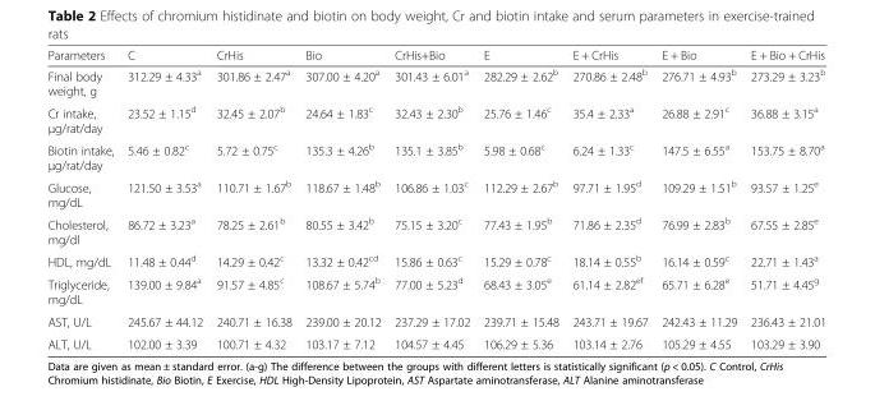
<table><thead><tr><td>Parameters</td><td>C</td><td>CrHis</td><td>Bio</td><td>CrHis+Bio</td><td>E</td><td>E + CrHis</td><td>E + Bio</td><td>E + Bio + CrHis</td></tr></thead><tbody><tr><td>Final body weight, g</td><td>312.29 ± 4.33<sup>a</sup></td><td>301.86 ± 2.47<sup>a</sup></td><td>307.00 ± 4.20<sup>a</sup></td><td>301.43 ± 6.01<sup>a</sup></td><td>282.29 ± 2.62<sup>b</sup></td><td>270.86 ± 2.48<sup>b</sup></td><td>276.71 ± 4.93<sup>b</sup></td><td>273.29 ± 3.23<sup>b</sup></td></tr><tr><td>Cr intake, μg/rat/day</td><td>23.52 ± 1.15<sup>d</sup></td><td>32.45 ± 2.07<sup>b</sup></td><td>24.64 ± 1.83<sup>c</sup></td><td>32.43 ± 2.30<sup>b</sup></td><td>25.76 ± 1.46<sup>c</sup></td><td>35.4 ± 2.33<sup>a</sup></td><td>26.88 ± 2.91<sup>c</sup></td><td>36.88 ± 3.15<sup>a</sup></td></tr><tr><td>Biotin intake, μg/rat/day</td><td>5.46 ± 0.82<sup>c</sup></td><td>5.72 ± 0.75<sup>c</sup></td><td>135.3 ± 4.26<sup>b</sup></td><td>135.1 ± 3.85<sup>b</sup></td><td>5.98 ± 0.68<sup>c</sup></td><td>6.24 ± 1.33<sup>c</sup></td><td>147.5 ± 6.55<sup>a</sup></td><td>153.75 ± 8.70<sup>a</sup></td></tr><tr><td>Glucose, mg/dL</td><td>121.50 ± 3.53<sup>a</sup></td><td>110.71 ± 1.67<sup>b</sup></td><td>118.67 ± 1.48<sup>b</sup></td><td>106.86 ± 1.03<sup>c</sup></td><td>112.29 ± 2.67<sup>b</sup></td><td>97.71 ± 1.95<sup>d</sup></td><td>109.29 ± 1.51<sup>b</sup></td><td>93.57 ± 1.25<sup>e</sup></td></tr><tr><td>Cholesterol, mg/dl</td><td>86.72 ± 3.23<sup>a</sup></td><td>78.25 ± 2.61<sup>b</sup></td><td>80.55 ± 3.42<sup>b</sup></td><td>75.15 ± 3.20<sup>c</sup></td><td>77.43 ± 1.95<sup>b</sup></td><td>71.86 ± 2.35<sup>d</sup></td><td>76.99 ± 2.83<sup>b</sup></td><td>67.55 ± 2.85<sup>e</sup></td></tr><tr><td>HDL, mg/dL</td><td>11.48 ± 0.44<sup>d</sup></td><td>14.29 ± 0.42<sup>c</sup></td><td>13.32 ± 0.42<sup>cd</sup></td><td>15.86 ± 0.63<sup>c</sup></td><td>15.29 ± 0.78<sup>c</sup></td><td>18.14 ± 0.55<sup>b</sup></td><td>16.14 ± 0.59<sup>c</sup></td><td>22.71 ± 1.43<sup>a</sup></td></tr><tr><td>Triglyceride, mg/dL</td><td>139.00 ± 9.84<sup>a</sup></td><td>91.57 ± 4.85<sup>c</sup></td><td>108.67 ± 5.74<sup>b</sup></td><td>77.00 ± 5.23<sup>d</sup></td><td>68.43 ± 3.05<sup>e</sup></td><td>61.14 ± 2.82<sup>ef</sup></td><td>65.71 ± 6.28<sup>e</sup></td><td>51.71 ± 4.45<sup>g</sup></td></tr><tr><td>AST, U/L</td><td>245.67 ± 44.12</td><td>240.71 ± 16.38</td><td>239.00 ± 20.12</td><td>237.29 ± 17.02</td><td>239.71 ± 15.48</td><td>243.71 ± 19.67</td><td>242.43 ± 11.29</td><td>236.43 ± 21.01</td></tr><tr><td>ALT, U/L</td><td>102.00 ± 3.39</td><td>100.71 ± 4.32</td><td>103.17 ± 7.12</td><td>104.57 ± 4.45</td><td>106.29 ± 5.36</td><td>103.14 ± 2.76</td><td>105.29 ± 4.55</td><td>103.29 ± 3.90</td></tr></tbody></table>